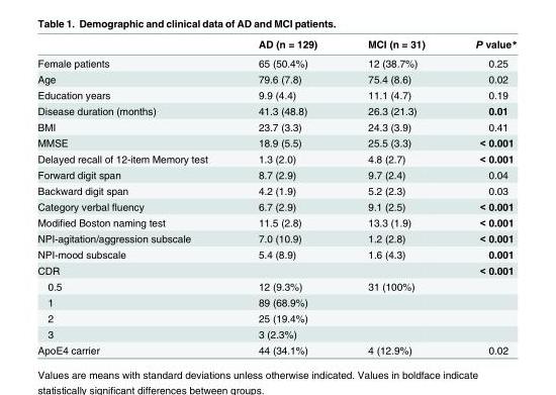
<table><thead><tr><td></td><td>AD (n = 129)</td><td>MCI (n = 31)</td><td>P value*</td></tr></thead><tbody><tr><td>Female patients</td><td>65 (50.4%)</td><td>12 (38.7%)</td><td>0.25</td></tr><tr><td>Age</td><td>79.6 (7.8)</td><td>75.4 (8.6)</td><td>0.02</td></tr><tr><td>Education years</td><td>9.9 (4.4)</td><td>11.1 (4.7)</td><td>0.19</td></tr><tr><td>Disease duration (months)</td><td>41.3 (48.8)</td><td>26.3 (21.3)</td><td>0.01</td></tr><tr><td>BMI</td><td>23.7 (3.3)</td><td>24.3 (3.9)</td><td>0.41</td></tr><tr><td>MMSE</td><td>18.9 (5.5)</td><td>25.5 (3.3)</td><td>&lt; 0.001</td></tr><tr><td>Delayed recall of 12-item Memory test</td><td>1.3 (2.0)</td><td>4.8 (2.7)</td><td>&lt; 0.001</td></tr><tr><td>Forward digit span</td><td>8.7 (2.9)</td><td>9.7 (2.4)</td><td>0.04</td></tr><tr><td>Backward digit span</td><td>4.2 (1.9)</td><td>5.2 (2.3)</td><td>0.03</td></tr><tr><td>Category verbal fluency</td><td>6.7 (2.9)</td><td>9.1 (2.5)</td><td>&lt; 0.001</td></tr><tr><td>Modified Boston naming test</td><td>11.5 (2.8)</td><td>13.3 (1.9)</td><td>&lt; 0.001</td></tr><tr><td>NPI-agitation/aggression subscale</td><td>7.0 (10.9)</td><td>1.2 (2.8)</td><td>&lt; 0.001</td></tr><tr><td>NPI-mood subscale</td><td>5.4 (8.9)</td><td>1.6 (4.3)</td><td>0.001</td></tr><tr><td>CDR</td><td></td><td></td><td>&lt; 0.001</td></tr><tr><td>0.5</td><td>12 (9.3%)</td><td>31 (100%)</td><td></td></tr><tr><td>1</td><td>89 (68.9%)</td><td></td><td></td></tr><tr><td>2</td><td>25 (19.4%)</td><td></td><td></td></tr><tr><td>3</td><td>3 (2.3%)</td><td></td><td></td></tr><tr><td>ApoE4 carrier</td><td>44 (34.1%)</td><td>4 (12.9%)</td><td>0.02</td></tr></tbody></table>